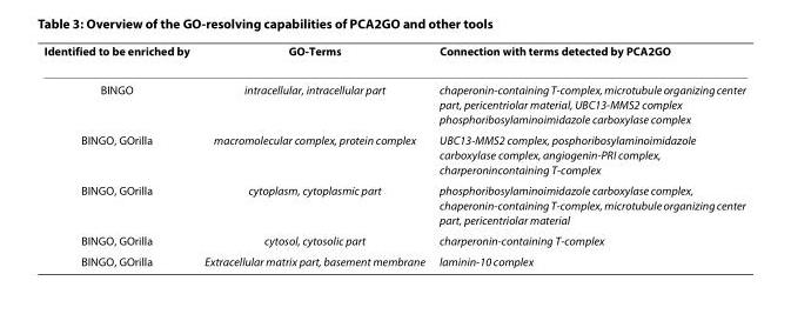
<table><thead><tr><td>Identified to be enriched by</td><td>GO-Terms</td><td>Connection with terms detected by PCA2GO</td></tr></thead><tbody><tr><td>BINGO</td><td>intracellular, intracellular part</td><td>chaperonin-containing T-complex, microtubule organizing center part, pericentriolar material, UBC13-MMS2 complex phosphoribosylaminoimidazole carboxylase complex</td></tr><tr><td>BINGO, GOrilla</td><td>macromolecular complex, protein complex</td><td>UBC13-MMS2 complex, posphoribosylaminoimidazole carboxylase complex, angiogenin-PRI complex, charperonincontaining T-complex</td></tr><tr><td>BINGO, GOrilla</td><td>cytoplasm, cytoplasmic part</td><td>phosphoribosylaminoimidazole carboxylase complex, chaperonin-containing T-complex, microtubule organizing center part, pericentriolar material</td></tr><tr><td>BINGO, GOrilla</td><td>cytosol, cytosolic part</td><td>charperonin-containing T-complex</td></tr><tr><td>BINGO, GOrilla</td><td>Extracellular matrix part, basement membrane</td><td>laminin-10 complex</td></tr></tbody></table>